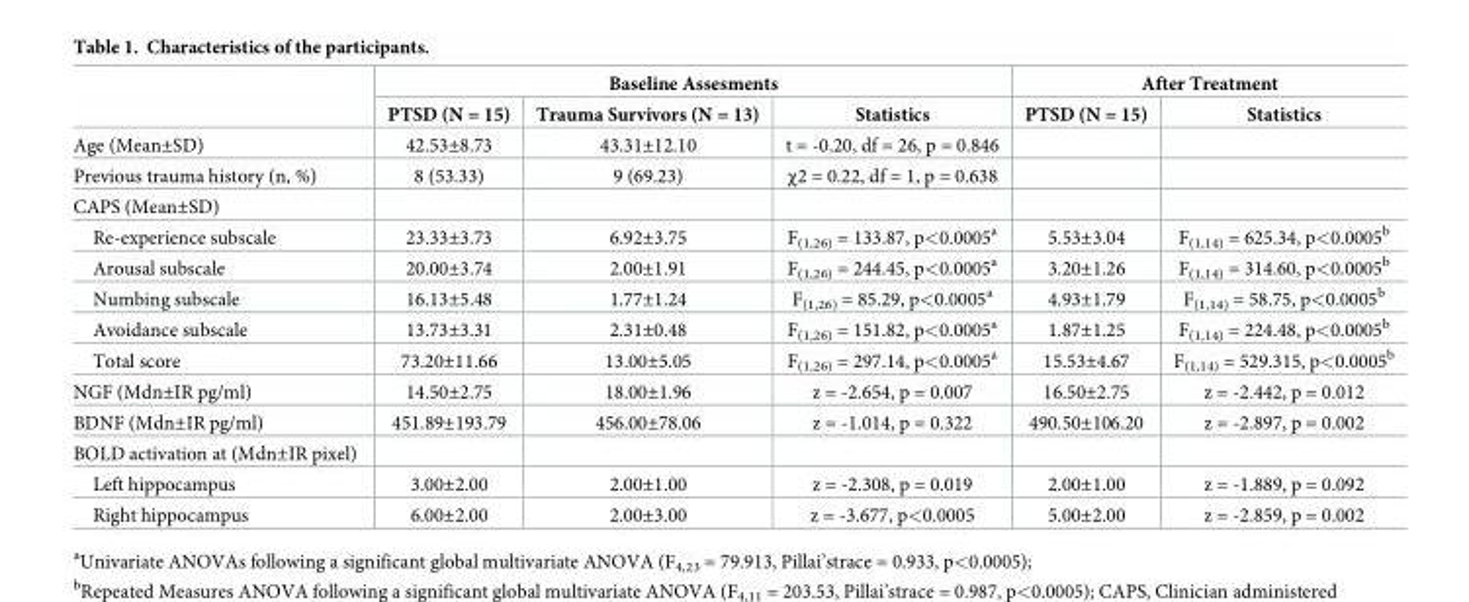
<table><thead><tr><td rowspan="2"></td><td colspan="3">Baseline Assesments</td><td colspan="2">After Treatment</td></tr><tr><td>PTSD (N = 15)</td><td>Trauma Survivors (N = 13)</td><td>Statistics</td><td>PTSD (N = 15)</td><td>Statistics</td></tr></thead><tbody><tr><td>Age (Mean±SD)</td><td>42.53±8.73</td><td>43.31±12.10</td><td>t = -0.20, df = 26, p = 0.846</td><td></td><td></td></tr><tr><td>Previous trauma history (n, %)</td><td>8 (53.33)</td><td>9 (69.23)</td><td>χ2 = 0.22, df = 1, p = 0.638</td><td></td><td></td></tr><tr><td colspan="6">CAPS (Mean±SD)</td></tr><tr><td>Re-experience subscale</td><td>23.33±3.73</td><td>6.92±3.75</td><td>F<sub>(1,26)</sub> = 133.87, p&lt;0.0005<sup>a</sup></td><td>5.53±3.04</td><td>F<sub>(1,14)</sub> = 625.34, p&lt;0.0005<sup>b</sup></td></tr><tr><td>Arousal subscale</td><td>20.00±3.74</td><td>2.00±1.91</td><td>F<sub>(1,26)</sub> = 244.45, p&lt;0.0005<sup>a</sup></td><td>3.20±1.26</td><td>F<sub>(1,14)</sub> = 314.60, p&lt;0.0005<sup>b</sup></td></tr><tr><td>Numbing subscale</td><td>16.13±5.48</td><td>1.77±1.24</td><td>F<sub>(1,26)</sub> = 85.29, p&lt;0.0005<sup>a</sup></td><td>4.93±1.79</td><td>F<sub>(1,14)</sub> = 58.75, p&lt;0.0005<sup>b</sup></td></tr><tr><td>Avoidance subscale</td><td>13.73±3.31</td><td>2.31±0.48</td><td>F<sub>(1,26)</sub> = 151.82, p&lt;0.0005<sup>a</sup></td><td>1.87±1.25</td><td>F<sub>(1,14)</sub> = 224.48, p&lt;0.0005<sup>b</sup></td></tr><tr><td>Total score</td><td>73.20±11.66</td><td>13.00±5.05</td><td>F<sub>(1,26)</sub> = 297.14, p&lt;0.0005<sup>a</sup></td><td>15.53±4.67</td><td>F<sub>(1,14)</sub> = 529.315, p&lt;0.0005<sup>b</sup></td></tr><tr><td>NGF (Mdn±IR pg/ml)</td><td>14.50±2.75</td><td>18.00±1.96</td><td>z = -2.654, p = 0.007</td><td>16.50±2.75</td><td>z = -2.442, p = 0.012</td></tr><tr><td>BDNF (Mdn±IR pg/ml)</td><td>451.89±193.79</td><td>456.00±78.06</td><td>z = -1.014, p = 0.322</td><td>490.50±106.20</td><td>z = -2.897, p = 0.002</td></tr><tr><td colspan="6">BOLD activation at (Mdn±IR pixel)</td></tr><tr><td>Left hippocampus</td><td>3.00±2.00</td><td>2.00±1.00</td><td>z = -2.308, p = 0.019</td><td>2.00±1.00</td><td>z = -1.889, p = 0.092</td></tr><tr><td>Right hippocampus</td><td>6.00±2.00</td><td>2.00±3.00</td><td>z = -3.677, p&lt;0.0005</td><td>5.00±2.00</td><td>z = -2.859, p = 0.002</td></tr></tbody></table>